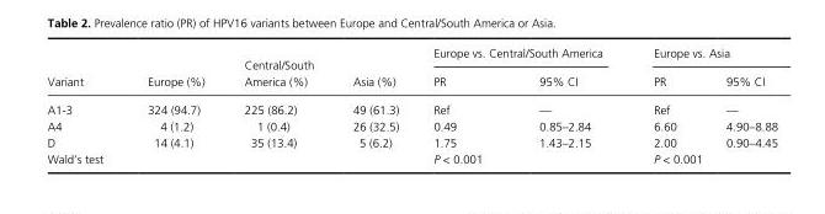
<table><thead><tr><td rowspan="2">Variant</td><td rowspan="2">Europe (%)</td><td rowspan="2">Central/South America (%)</td><td rowspan="2">Asia (%)</td><td colspan="2">Europe vs. Central/South America</td><td colspan="2">Europe vs. Asia</td></tr><tr><td>PR</td><td>95% CI</td><td>PR</td><td>95% CI</td></tr></thead><tbody><tr><td>A1- 3</td><td>324 (94.7)</td><td>225 (86.2)</td><td>49 (61.3)</td><td>Ref</td><td>—</td><td>Ref</td><td>—</td></tr><tr><td>A4</td><td>4 (1.2)</td><td>1 (0.4)</td><td>26 (32.5)</td><td>0.49</td><td>0.85–2.84</td><td>6.60</td><td>4.90–8.88</td></tr><tr><td>D</td><td>14 (4.1)</td><td>35 (13.4)</td><td>5 (6.2)</td><td>1.75</td><td>1.43–2.15</td><td>2.00</td><td>0.90–4.45</td></tr><tr><td>Wald’s test</td><td></td><td></td><td></td><td colspan="2">P &lt; 0.001</td><td colspan="2">P &lt; 0.001</td></tr></tbody></table>